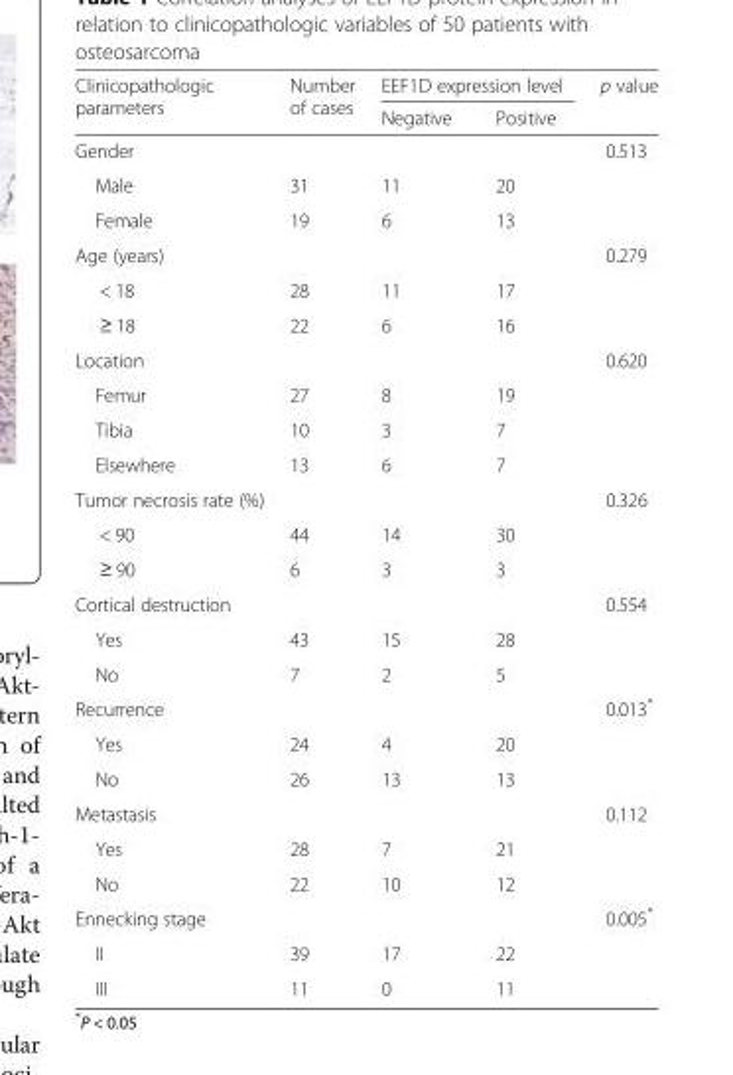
<table><thead><tr><td rowspan="2">Clinicopathologic parameters</td><td rowspan="2">Number of cases</td><td colspan="2">EEF1D expression level</td><td rowspan="2">p value</td></tr><tr><td>Negative</td><td>Positive</td></tr></thead><tbody><tr><td>Gender</td><td></td><td></td><td></td><td>0.513</td></tr><tr><td>Male</td><td>31</td><td>11</td><td>20</td><td></td></tr><tr><td>Female</td><td>19</td><td>6</td><td>13</td><td></td></tr><tr><td>Age (years)</td><td></td><td></td><td></td><td>0.279</td></tr><tr><td>&lt; 18</td><td>28</td><td>11</td><td>17</td><td></td></tr><tr><td>≥ 18</td><td>22</td><td>6</td><td>16</td><td></td></tr><tr><td>Location</td><td></td><td></td><td></td><td>0.620</td></tr><tr><td>Femur</td><td>27</td><td>8</td><td>19</td><td></td></tr><tr><td>Tibia</td><td>10</td><td>3</td><td>7</td><td></td></tr><tr><td>Elsewhere</td><td>13</td><td>6</td><td>7</td><td></td></tr><tr><td>Tumor necrosis rate (%)</td><td></td><td></td><td></td><td>0.326</td></tr><tr><td>&lt; 90</td><td>44</td><td>14</td><td>30</td><td></td></tr><tr><td>≥ 90</td><td>6</td><td>3</td><td>3</td><td></td></tr><tr><td>Cortical destruction</td><td></td><td></td><td></td><td>0.554</td></tr><tr><td>Yes</td><td>43</td><td>15</td><td>28</td><td></td></tr><tr><td>No</td><td>7</td><td>2</td><td>5</td><td></td></tr><tr><td>Recurrence</td><td></td><td></td><td></td><td>0.013*</td></tr><tr><td>Yes</td><td>24</td><td>4</td><td>20</td><td></td></tr><tr><td>No</td><td>26</td><td>13</td><td>13</td><td></td></tr><tr><td>Metastasis</td><td></td><td></td><td></td><td>0.112</td></tr><tr><td>Yes</td><td>28</td><td>7</td><td>21</td><td></td></tr><tr><td>No</td><td>22</td><td>10</td><td>12</td><td></td></tr><tr><td>Ennecking stage</td><td></td><td></td><td></td><td>0.005*</td></tr><tr><td>II</td><td>39</td><td>17</td><td>22</td><td></td></tr><tr><td>III</td><td>11</td><td>0</td><td>11</td><td></td></tr></tbody></table>